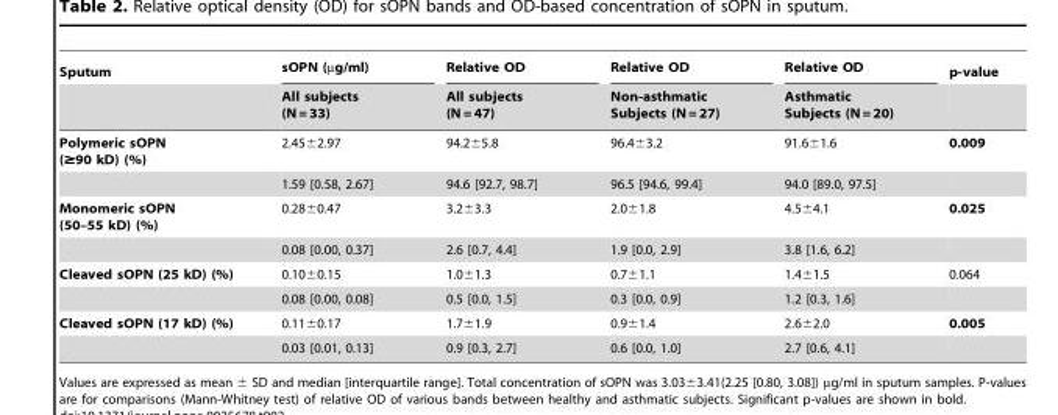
<table><thead><tr><td rowspan="2">Sputum</td><td rowspan="2">sOPN (µg/ml) All subjects (N = 33)</td><td rowspan="2">Relative OD All subjects (N = 47)</td><td rowspan="2">Relative OD Non-asthmatic Subjects (N = 27)</td><td rowspan="2">Relative OD Asthmatic Subjects (N = 20)</td><td rowspan="2">p-value</td></tr><tr></tr></thead><tbody><tr><td rowspan="2">Polymeric sOPN (≥90 kD) (%)</td><td>2.45±2.97</td><td>94.2±5.8</td><td>96.4±3.2</td><td>91.6±1.6</td><td>0.009</td></tr><tr><td>1.59 [0.58, 2.67]</td><td>94.6 [92.7, 98.7]</td><td>96.5 [94.6, 99.4]</td><td>94.0 [89.0, 97.5]</td><td></td></tr><tr><td rowspan="2">Monomeric sOPN (50–55 kD) (%)</td><td>0.28±0.47</td><td>3.2±3.3</td><td>2.0±1.8</td><td>4.5±4.1</td><td>0.025</td></tr><tr><td>0.08 [0.00, 0.37]</td><td>2.6 [0.7, 4.4]</td><td>1.9 [0.0, 2.9]</td><td>3.8 [1.6, 6.2]</td><td></td></tr><tr><td rowspan="2">Cleaved sOPN (25 kD) (%)</td><td>0.10±0.15</td><td>1.0±1.3</td><td>0.7±1.1</td><td>1.4±1.5</td><td>0.064</td></tr><tr><td>0.08 [0.00, 0.08]</td><td>0.5 [0.0, 1.5]</td><td>0.3 [0.0, 0.9]</td><td>1.2 [0.3, 1.6]</td><td></td></tr><tr><td rowspan="2">Cleaved sOPN (17 kD) (%)</td><td>0.11±0.17</td><td>1.7±1.9</td><td>0.9±1.4</td><td>2.6±2.0</td><td>0.005</td></tr><tr><td>0.03 [0.01, 0.13]</td><td>0.9 [0.3, 2.7]</td><td>0.6 [0.0, 1.0]</td><td>2.7 [0.6, 4.1]</td><td></td></tr></tbody></table>